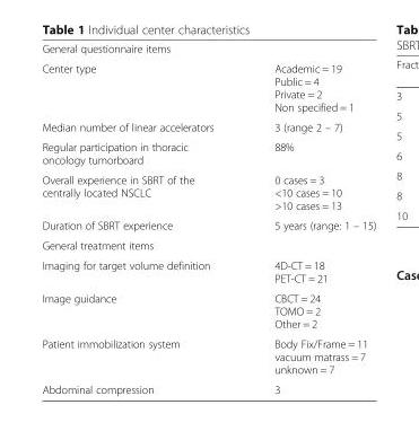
<table><tbody><tr><td colspan="2">General questionnaire items</td></tr><tr><td>Center type</td><td>Academic = 19 Public = 4 Private = 2 Non specified = 1</td></tr><tr><td>Median number of linear accelerators</td><td>3 (range 2 – 7)</td></tr><tr><td>Regular participation in thoracic oncology tumorboard</td><td>88%</td></tr><tr><td>Overall experience in SBRT of the centrally located NSCLC</td><td>0 cases = 3 &lt;10 cases = 10 &gt;10 cases = 13</td></tr><tr><td>Duration of SBRT experience</td><td>5 years (range: 1 – 15)</td></tr><tr><td colspan="2">General treatment items</td></tr><tr><td>Imaging for target volume definition</td><td>4D-CT = 18 PET-CT = 21</td></tr><tr><td>Image guidance</td><td>CBCT = 24 TOMO = 2 Other = 2</td></tr><tr><td>Patient immobilization system</td><td>Body Fix/Frame = 11 vacuum matrass = 7 unknown = 7</td></tr><tr><td>Abdominal compression</td><td>3</td></tr></tbody></table>